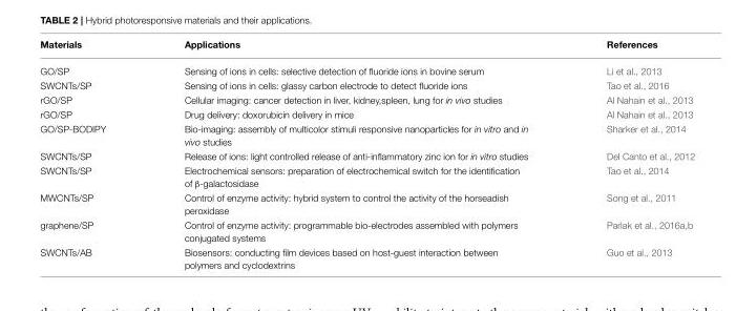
<table><thead><tr><td>Materials</td><td>Applications</td><td>References</td></tr></thead><tbody><tr><td>GO/SP</td><td>Sensing of ions in cells: selective detection of fluoride ions in bovine serum</td><td>Li et al., 2013</td></tr><tr><td>SWCNTs/SP</td><td>Sensing of ions in cells: glassy carbon electrode to detect fluoride ions</td><td>Tao et al., 2016</td></tr><tr><td>rGO/SP</td><td>Cellular imaging: cancer detection in liver, kidney,spleen, lung for in vivo studies</td><td>Al Nahain et al., 2013</td></tr><tr><td>rGO/SP</td><td>Drug delivery: doxorubicin delivery in mice</td><td>Al Nahain et al., 2013</td></tr><tr><td>GO/SP-BODIPY</td><td>Bio-imaging: assembly of multicolor stimuli responsive nanoparticles for in vitro and in vivo studies</td><td>Sharker et al., 2014</td></tr><tr><td>SWCNTs/SP</td><td>Release of ions: light controlled release of anti-inflammatory zinc ion for in vitro studies</td><td>Del Canto et al., 2012</td></tr><tr><td>SWCNTs/SP</td><td>Electrochemical sensors: preparation of electrochemical switch for the identification of β-galactosidase</td><td>Tao et al., 2014</td></tr><tr><td>MWCNTs/SP</td><td>Control of enzyme activity: hybrid system to control the activity of the horseadish peroxidase</td><td>Song et al., 2011</td></tr><tr><td>graphene/SP</td><td>Control of enzyme activity: programmable bio-electrodes assembled with polymers conjugated systems</td><td>Parlak et al., 2016a,b</td></tr><tr><td>SWCNTs/AB</td><td>Biosensors: conducting film devices based on host-guest interaction between polymers and cyclodextrins</td><td>Guo et al., 2013</td></tr></tbody></table>